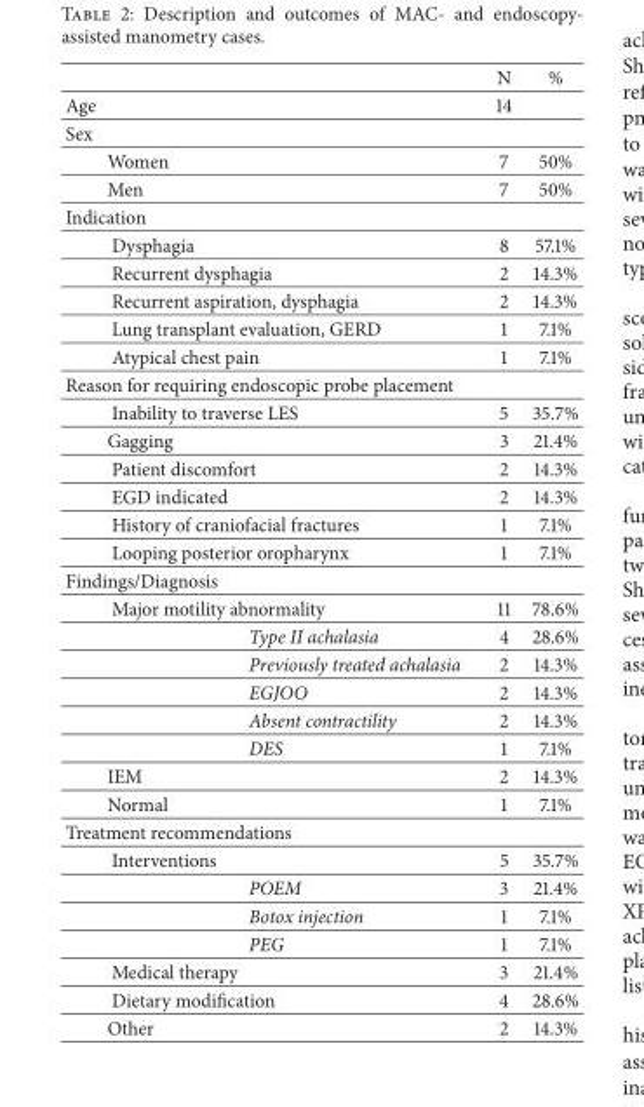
<table><thead><tr><td></td><td></td><td></td><td>N</td><td>%</td></tr></thead><tbody><tr><td>Age</td><td></td><td></td><td>14</td><td></td></tr><tr><td colspan="5">Sex</td></tr><tr><td></td><td>Women</td><td></td><td>7</td><td>50%</td></tr><tr><td></td><td>Men</td><td></td><td>7</td><td>50%</td></tr><tr><td colspan="5">Indication</td></tr><tr><td></td><td colspan="2">Dysphagia</td><td>8</td><td>57.1%</td></tr><tr><td></td><td colspan="2">Recurrent dysphagia</td><td>2</td><td>14.3%</td></tr><tr><td></td><td colspan="2">Recurrent aspiration, dysphagia</td><td>2</td><td>14.3%</td></tr><tr><td></td><td colspan="2">Lung transplant evaluation, GERD</td><td>1</td><td>7.1%</td></tr><tr><td></td><td colspan="2">Atypical chest pain</td><td>1</td><td>7.1%</td></tr><tr><td colspan="5">Reason for requiring endoscopic probe placement</td></tr><tr><td></td><td colspan="2">Inability to traverse LES</td><td>5</td><td>35.7%</td></tr><tr><td></td><td>Gagging</td><td></td><td>3</td><td>21.4%</td></tr><tr><td></td><td colspan="2">Patient discomfort</td><td>2</td><td>14.3%</td></tr><tr><td></td><td colspan="2">EGD indicated</td><td>2</td><td>14.3%</td></tr><tr><td></td><td colspan="2">History of craniofacial fractures</td><td>1</td><td>7.1%</td></tr><tr><td></td><td colspan="2">Looping posterior oropharynx</td><td>1</td><td>7.1%</td></tr><tr><td colspan="5">Findings/Diagnosis</td></tr><tr><td></td><td colspan="2">Major motility abnormality</td><td>11</td><td>78.6%</td></tr><tr><td></td><td></td><td>Type II achalasia</td><td>4</td><td>28.6%</td></tr><tr><td></td><td></td><td>Previously treated achalasia</td><td>2</td><td>14.3%</td></tr><tr><td></td><td></td><td>EGJOO</td><td>2</td><td>14.3%</td></tr><tr><td></td><td></td><td>Absent contractility</td><td>2</td><td>14.3%</td></tr><tr><td></td><td></td><td>DES</td><td>1</td><td>7.1%</td></tr><tr><td></td><td>IEM</td><td></td><td>2</td><td>14.3%</td></tr><tr><td></td><td>Normal</td><td></td><td>1</td><td>7.1%</td></tr><tr><td colspan="5">Treatment recommendations</td></tr><tr><td></td><td colspan="2">Interventions</td><td>5</td><td>35.7%</td></tr><tr><td></td><td></td><td>POEM</td><td>3</td><td>21.4%</td></tr><tr><td></td><td></td><td>Botox injection</td><td>1</td><td>7.1%</td></tr><tr><td></td><td></td><td>PEG</td><td>1</td><td>7.1%</td></tr><tr><td></td><td colspan="2">Medical therapy</td><td>3</td><td>21.4%</td></tr><tr><td></td><td colspan="2">Dietary modification</td><td>4</td><td>28.6%</td></tr><tr><td></td><td>Other</td><td></td><td>2</td><td>14.3%</td></tr></tbody></table>